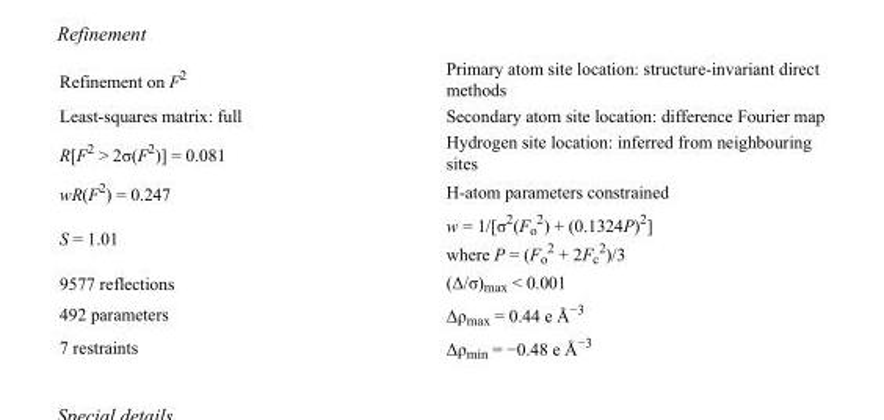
<table><tbody><tr><td>Refinement on F<sup>2</sup></td><td>Primary atom site location: structure-invariant direct methods</td></tr><tr><td>Least-squares matrix: full</td><td>Secondary atom site location: difference Fourier map</td></tr><tr><td>R[F<sup>2</sup> &gt; 2σ(F<sup>2</sup>)] = 0.081</td><td>Hydrogen site location: inferred from neighbouring sites</td></tr><tr><td>wR(F<sup>2</sup>) = 0.247</td><td>H-atom parameters constrained</td></tr><tr><td>S = 1.01</td><td>w = 1/[σ<sup>2</sup>(F<sub>o</sub> <sup>2</sup>) + (0.1324P)<sup>2</sup>] where P = (F<sub>o</sub> <sup>2</sup> + 2F<sub>c</sub> <sup>2</sup>)/3</td></tr><tr><td>9577 reflections</td><td>(Δ/σ)<sub>max</sub> &lt; 0.001</td></tr><tr><td>492 parameters</td><td>Δρ<sub>max</sub> = 0.44 e Å<sup>−3</sup></td></tr><tr><td>7 restraints</td><td>Δρ<sub>min</sub> = −0.48 e Å<sup>−3</sup></td></tr></tbody></table>